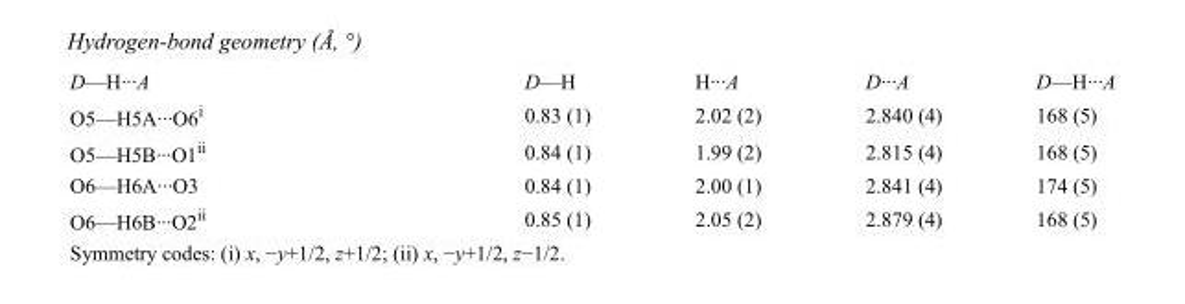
<table><tbody><tr><td>D—H···A</td><td>D—H</td><td>H···A</td><td>D···A</td><td>D—H···A</td></tr><tr><td>O5—H5A···O6<sup>i</sup></td><td>0.83 (1)</td><td>2.02 (2)</td><td>2.840 (4)</td><td>168 (5)</td></tr><tr><td>O5—H5B···O1<sup>ii</sup></td><td>0.84 (1)</td><td>1.99 (2)</td><td>2.815 (4)</td><td>168 (5)</td></tr><tr><td>O6—H6A···O3</td><td>0.84 (1)</td><td>2.00 (1)</td><td>2.841 (4)</td><td>174 (5)</td></tr><tr><td>O6—H6B···O2<sup>ii</sup></td><td>0.85 (1)</td><td>2.05 (2)</td><td>2.879 (4)</td><td>168 (5)</td></tr></tbody></table>